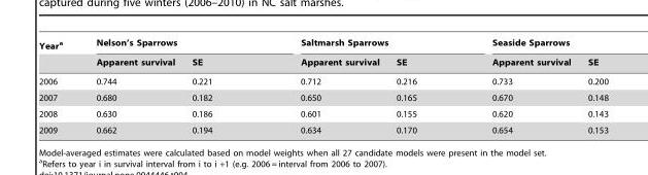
<table><thead><tr><td rowspan="2">Year<sup>a</sup></td><td colspan="2">Nelson’s Sparrows</td><td colspan="2">Saltmarsh Sparrows</td><td colspan="2">Seaside Sparrows</td></tr><tr><td>Apparent survival</td><td>SE</td><td>Apparent survival</td><td>SE</td><td>Apparent survival</td><td>SE</td></tr></thead><tbody><tr><td>2006</td><td>0.744</td><td>0.221</td><td>0.712</td><td>0.216</td><td>0.733</td><td>0.200</td></tr><tr><td>2007</td><td>0.680</td><td>0.182</td><td>0.650</td><td>0.165</td><td>0.670</td><td>0.148</td></tr><tr><td>2008</td><td>0.630</td><td>0.186</td><td>0.601</td><td>0.155</td><td>0.620</td><td>0.143</td></tr><tr><td>2009</td><td>0.662</td><td>0.194</td><td>0.634</td><td>0.170</td><td>0.654</td><td>0.153</td></tr></tbody></table>